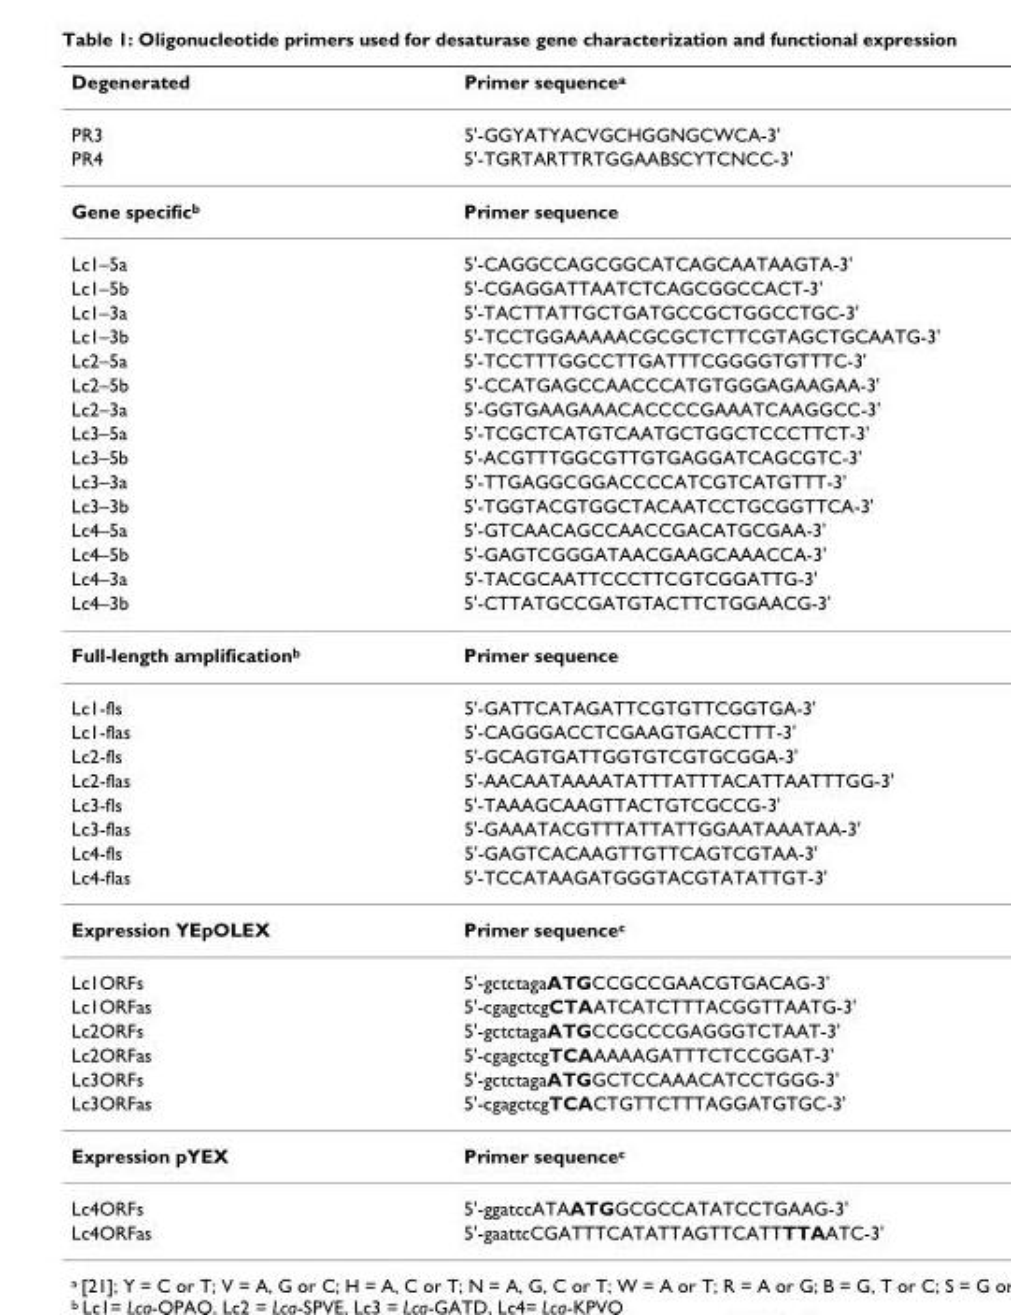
<table><thead><tr><td>Degenerated</td><td>Primer sequence<sup>a</sup></td></tr></thead><tbody><tr><td>PR3</td><td>5&#x27;-GGYATYACVGCHGGNGCWCA-3&#x27;</td></tr><tr><td>PR4</td><td>5&#x27;-TGRTARTTRTGGAABSCYTCNCC-3&#x27;</td></tr><tr><td>Gene specific<sup>b</sup></td><td>Primer sequence</td></tr><tr><td>Lc1–5a</td><td>5&#x27;-CAGGCCAGCGGCATCAGCAATAAGTA-3&#x27;</td></tr><tr><td>Lc1–5b</td><td>5&#x27;-CGAGGATTAATCTCAGCGGCCACT-3&#x27;</td></tr><tr><td>Lc1–3a</td><td>5&#x27;-TACTTATTGCTGATGCCGCTGGCCTGC-3&#x27;</td></tr><tr><td>Lc1–3b</td><td>5&#x27;-TCCTGGAAAAACGCGCTCTTCGTAGCTGCAATG-3&#x27;</td></tr><tr><td>Lc2–5a</td><td>5&#x27;-TCCTTTGGCCTTGATTTCGGGGTGTTTC-3&#x27;</td></tr><tr><td>Lc2–5b</td><td>5&#x27;-CCATGAGCCAACCCATGTGGGAGAAGAA-3&#x27;</td></tr><tr><td>Lc2–3a</td><td>5&#x27;-GGTGAAGAAACACCCCGAAATCAAGGCC-3&#x27;</td></tr><tr><td>Lc3–5a</td><td>5&#x27;-TCGCTCATGTCAATGCTGGCTCCCTTCT-3&#x27;</td></tr><tr><td>Lc3–5b</td><td>5&#x27;-ACGTTTGGCGTTGTGAGGATCAGCGTC-3&#x27;</td></tr><tr><td>Lc3–3a</td><td>5&#x27;-TTGAGGCGGACCCCATCGTCATGTTT-3&#x27;</td></tr><tr><td>Lc3–3b</td><td>5&#x27;-TGGTACGTGGCTACAATCCTGCGGTTCA-3&#x27;</td></tr><tr><td>Lc4–5a</td><td>5&#x27;-GTCAACAGCCAACCGACATGCGAA-3&#x27;</td></tr><tr><td>Lc4–5b</td><td>5&#x27;-GAGTCGGGATAACGAAGCAAACCA-3&#x27;</td></tr><tr><td>Lc4–3a</td><td>5&#x27;-TACGCAATTCCCTTCGTCGGATTG-3&#x27;</td></tr><tr><td>Lc4–3b</td><td>5&#x27;-CTTATGCCGATGTACTTCTGGAACG-3&#x27;</td></tr><tr><td>Full-length amplification<sup>b</sup></td><td>Primer sequence</td></tr><tr><td>Lc1-fls</td><td>5&#x27;-GATTCATAGATTCGTGTTCGGTGA-3&#x27;</td></tr><tr><td>Lc1-flas</td><td>5&#x27;-CAGGGACCTCGAAGTGACCTTT-3&#x27;</td></tr><tr><td>Lc2-fls</td><td>5&#x27;-GCAGTGATTGGTGTCGTGCGGA-3&#x27;</td></tr><tr><td>Lc2-flas</td><td>5&#x27;-AACAATAAAATATTTATTTACATTAATTTGG-3&#x27;</td></tr><tr><td>Lc3-fls</td><td>5&#x27;-TAAAGCAAGTTACTGTCGCCG-3&#x27;</td></tr><tr><td>Lc3-flas</td><td>5&#x27;-GAAATACGTTTATTATTGGAATAAATAA-3&#x27;</td></tr><tr><td>Lc4-fls</td><td>5&#x27;-GAGTCACAAGTTGTTCAGTCGTAA-3&#x27;</td></tr><tr><td>Lc4-flas</td><td>5&#x27;-TCCATAAGATGGGTACGTATATTGT-3&#x27;</td></tr><tr><td>Expression YEpOLEX</td><td>Primer sequence<sup>c</sup></td></tr><tr><td>Lc1ORFs</td><td>5&#x27;-gctctagaATGCCGCCGAACGTGACAG-3&#x27;</td></tr><tr><td>Lc1ORFas</td><td>5&#x27;-cgagctcgCTAATCATCTTTACGGTTAATG-3&#x27;</td></tr><tr><td>Lc2ORFs</td><td>5&#x27;-gctctagaATGCCGCCCGAGGGTCTAAT-3&#x27;</td></tr><tr><td>Lc2ORFas</td><td>5&#x27;-cgagctcgTCAAAAAGATTTCTCCGGAT-3&#x27;</td></tr><tr><td>Lc3ORFs</td><td>5&#x27;-gctctagaATGGCTCCAAACATCCTGGG-3&#x27;</td></tr><tr><td>Lc3ORFas</td><td>5&#x27;-cgagctcgTCACTGTTCTTTAGGATGTGC-3&#x27;</td></tr><tr><td>Expression pYEX</td><td>Primer sequence<sup>c</sup></td></tr><tr><td>Lc4ORFs</td><td>5&#x27;-ggatccATAATGGCGCCATATCCTGAAG-3&#x27;</td></tr><tr><td>Lc4ORFas</td><td>5&#x27;-gaattcCGATTTCATATTAGTTCATTTTAATC-3&#x27;</td></tr></tbody></table>